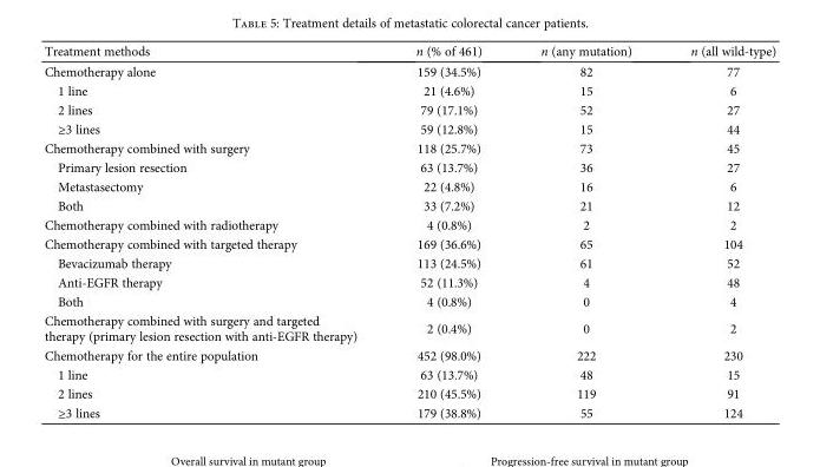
<table><thead><tr><td>Treatment methods</td><td>n (% of 461)</td><td>n (any mutation)</td><td>n (all wild-type)</td></tr></thead><tbody><tr><td>Chemotherapy alone</td><td>159 (34.5%)</td><td>82</td><td>77</td></tr><tr><td>1 line</td><td>21 (4.6%)</td><td>15</td><td>6</td></tr><tr><td>2 lines</td><td>79 (17.1%)</td><td>52</td><td>27</td></tr><tr><td>≥3 lines</td><td>59 (12.8%)</td><td>15</td><td>44</td></tr><tr><td>Chemotherapy combined with surgery</td><td>118 (25.7%)</td><td>73</td><td>45</td></tr><tr><td>Primary lesion resection</td><td>63 (13.7%)</td><td>36</td><td>27</td></tr><tr><td>Metastasectomy</td><td>22 (4.8%)</td><td>16</td><td>6</td></tr><tr><td>Both</td><td>33 (7.2%)</td><td>21</td><td>12</td></tr><tr><td>Chemotherapy combined with radiotherapy</td><td>4 (0.8%)</td><td>2</td><td>2</td></tr><tr><td>Chemotherapy combined with targeted therapy</td><td>169 (36.6%)</td><td>65</td><td>104</td></tr><tr><td>Bevacizumab therapy</td><td>113 (24.5%)</td><td>61</td><td>52</td></tr><tr><td>Anti-EGFR therapy</td><td>52 (11.3%)</td><td>4</td><td>48</td></tr><tr><td>Both</td><td>4 (0.8%)</td><td>0</td><td>4</td></tr><tr><td>Chemotherapy combined with surgery and targeted therapy (primary lesion resection with anti-EGFR therapy)</td><td>2 (0.4%)</td><td>0</td><td>2</td></tr><tr><td>Chemotherapy for the entire population</td><td>452 (98.0%)</td><td>222</td><td>230</td></tr><tr><td>1 line</td><td>63 (13.7%)</td><td>48</td><td>15</td></tr><tr><td>2 lines</td><td>210 (45.5%)</td><td>119</td><td>91</td></tr><tr><td>≥3 lines</td><td>179 (38.8%)</td><td>55</td><td>124</td></tr></tbody></table>